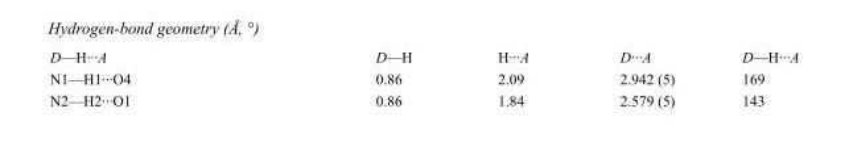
<table><tbody><tr><td>D—H···A</td><td>D—H</td><td>H···A</td><td>D···A</td><td>D—H···A</td></tr><tr><td>N1—H1···O4</td><td>0.86</td><td>2.09</td><td>2.942 (5)</td><td>169</td></tr><tr><td>N2—H2···O1</td><td>0.86</td><td>1.84</td><td>2.579 (5)</td><td>143</td></tr></tbody></table>